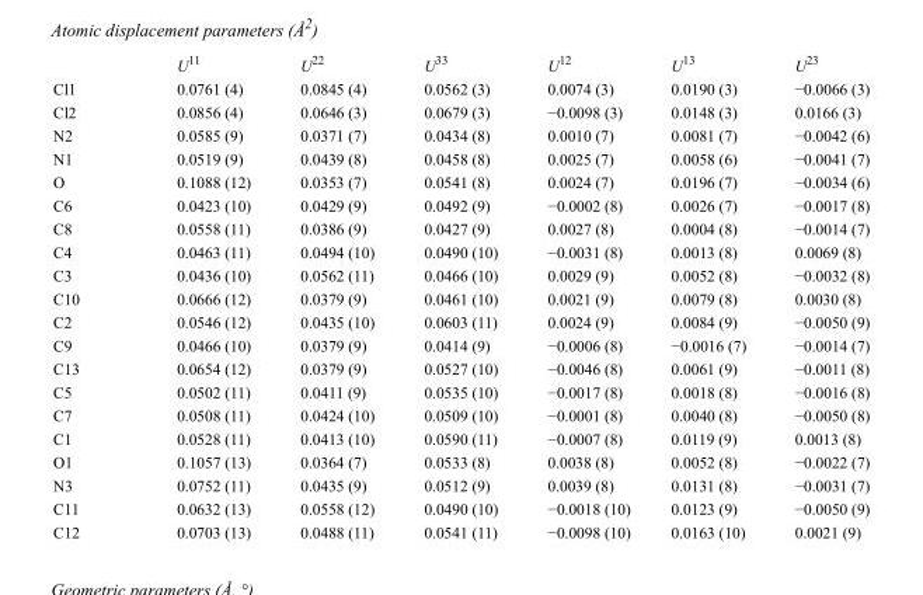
<table><thead><tr><td></td><td>U<sup>11</sup></td><td>U<sup>22</sup></td><td>U<sup>33</sup></td><td>U<sup>12</sup></td><td>U<sup>13</sup></td><td>U<sup>23</sup></td></tr></thead><tbody><tr><td>Cl1</td><td>0.0761 (4)</td><td>0.0845 (4)</td><td>0.0562 (3)</td><td>0.0074 (3)</td><td>0.0190 (3)</td><td>−0.0066 (3)</td></tr><tr><td>Cl2</td><td>0.0856 (4)</td><td>0.0646 (3)</td><td>0.0679 (3)</td><td>−0.0098 (3)</td><td>0.0148 (3)</td><td>0.0166 (3)</td></tr><tr><td>N2</td><td>0.0585 (9)</td><td>0.0371 (7)</td><td>0.0434 (8)</td><td>0.0010 (7)</td><td>0.0081 (7)</td><td>−0.0042 (6)</td></tr><tr><td>N1</td><td>0.0519 (9)</td><td>0.0439 (8)</td><td>0.0458 (8)</td><td>0.0025 (7)</td><td>0.0058 (6)</td><td>−0.0041 (7)</td></tr><tr><td>O</td><td>0.1088 (12)</td><td>0.0353 (7)</td><td>0.0541 (8)</td><td>0.0024 (7)</td><td>0.0196 (7)</td><td>−0.0034 (6)</td></tr><tr><td>C6</td><td>0.0423 (10)</td><td>0.0429 (9)</td><td>0.0492 (9)</td><td>−0.0002 (8)</td><td>0.0026 (7)</td><td>−0.0017 (8)</td></tr><tr><td>C8</td><td>0.0558 (11)</td><td>0.0386 (9)</td><td>0.0427 (9)</td><td>0.0027 (8)</td><td>0.0004 (8)</td><td>−0.0014 (7)</td></tr><tr><td>C4</td><td>0.0463 (11)</td><td>0.0494 (10)</td><td>0.0490 (10)</td><td>−0.0031 (8)</td><td>0.0013 (8)</td><td>0.0069 (8)</td></tr><tr><td>C3</td><td>0.0436 (10)</td><td>0.0562 (11)</td><td>0.0466 (10)</td><td>0.0029 (9)</td><td>0.0052 (8)</td><td>−0.0032 (8)</td></tr><tr><td>C10</td><td>0.0666 (12)</td><td>0.0379 (9)</td><td>0.0461 (10)</td><td>0.0021 (9)</td><td>0.0079 (8)</td><td>0.0030 (8)</td></tr><tr><td>C2</td><td>0.0546 (12)</td><td>0.0435 (10)</td><td>0.0603 (11)</td><td>0.0024 (9)</td><td>0.0084 (9)</td><td>−0.0050 (9)</td></tr><tr><td>C9</td><td>0.0466 (10)</td><td>0.0379 (9)</td><td>0.0414 (9)</td><td>−0.0006 (8)</td><td>−0.0016 (7)</td><td>−0.0014 (7)</td></tr><tr><td>C13</td><td>0.0654 (12)</td><td>0.0379 (9)</td><td>0.0527 (10)</td><td>−0.0046 (8)</td><td>0.0061 (9)</td><td>−0.0011 (8)</td></tr><tr><td>C5</td><td>0.0502 (11)</td><td>0.0411 (9)</td><td>0.0535 (10)</td><td>−0.0017 (8)</td><td>0.0018 (8)</td><td>−0.0016 (8)</td></tr><tr><td>C7</td><td>0.0508 (11)</td><td>0.0424 (10)</td><td>0.0509 (10)</td><td>−0.0001 (8)</td><td>0.0040 (8)</td><td>−0.0050 (8)</td></tr><tr><td>C1</td><td>0.0528 (11)</td><td>0.0413 (10)</td><td>0.0590 (11)</td><td>−0.0007 (8)</td><td>0.0119 (9)</td><td>0.0013 (8)</td></tr><tr><td>O1</td><td>0.1057 (13)</td><td>0.0364 (7)</td><td>0.0533 (8)</td><td>0.0038 (8)</td><td>0.0052 (8)</td><td>−0.0022 (7)</td></tr><tr><td>N3</td><td>0.0752 (11)</td><td>0.0435 (9)</td><td>0.0512 (9)</td><td>0.0039 (8)</td><td>0.0131 (8)</td><td>−0.0031 (7)</td></tr><tr><td>C11</td><td>0.0632 (13)</td><td>0.0558 (12)</td><td>0.0490 (10)</td><td>−0.0018 (10)</td><td>0.0123 (9)</td><td>−0.0050 (9)</td></tr><tr><td>C12</td><td>0.0703 (13)</td><td>0.0488 (11)</td><td>0.0541 (11)</td><td>−0.0098 (10)</td><td>0.0163 (10)</td><td>0.0021 (9)</td></tr></tbody></table>